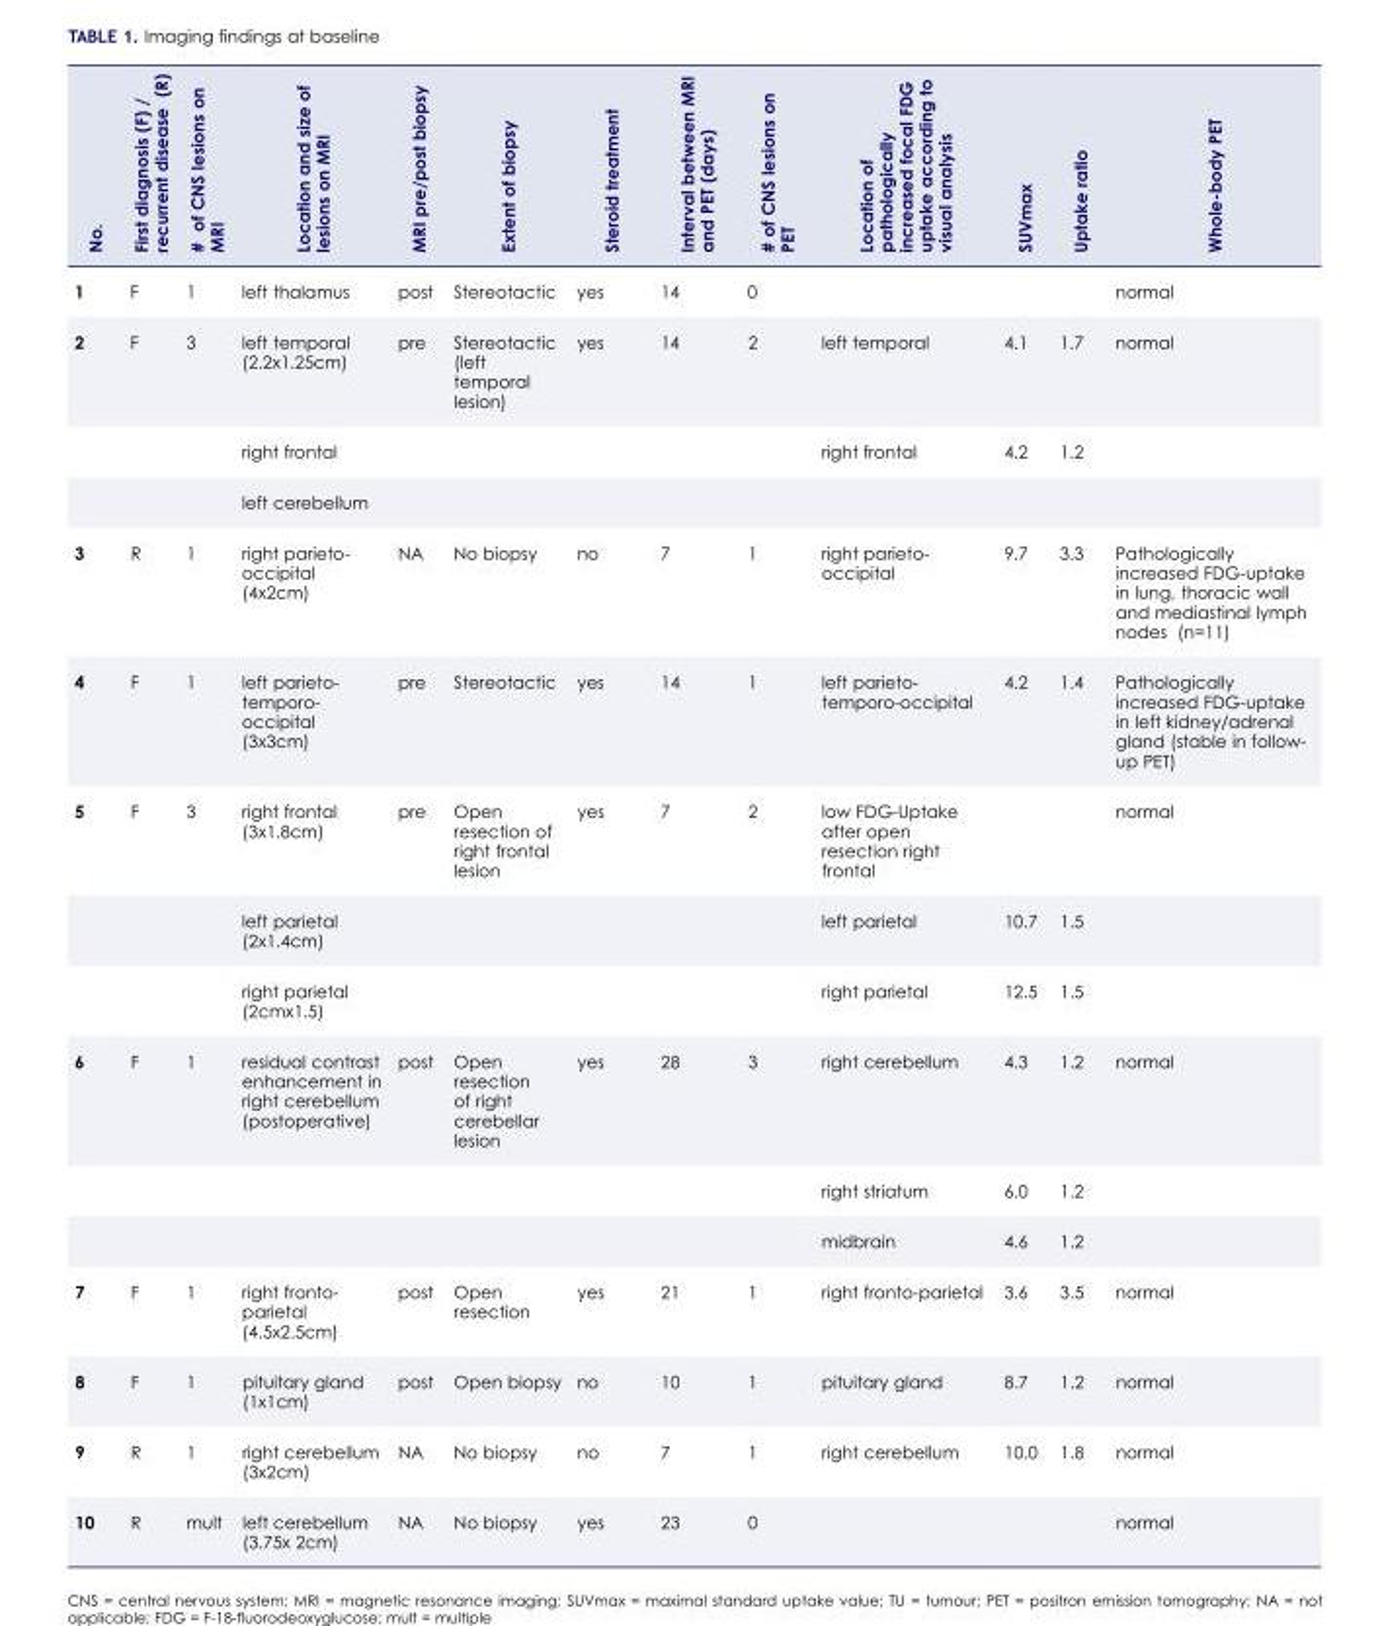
<table><thead><tr><td>No.</td><td>First diagnosis (F) / recurrent disease (R)</td><td># of CNS lesions on MRI</td><td>Location and size of lesions on MRI</td><td>MRI pre/post biopsy</td><td>Extent of biopsy</td><td>Steroid treatment</td><td>Interval between MRI and PET (days)</td><td># of CNS lesions on PET</td><td>Location of pathologically increased focal FDG uptake according to visual analysis</td><td>SUVmax</td><td>Uptake ratio</td><td>Whole-body PET</td></tr></thead><tbody><tr><td>1</td><td>F</td><td>1</td><td>left thalamus</td><td>post</td><td>Stereotactic</td><td>yes</td><td>14</td><td>0</td><td></td><td></td><td></td><td>normal</td></tr><tr><td rowspan="3">2</td><td>F</td><td>3</td><td>left temporal (2.2x1.25cm)</td><td>pre</td><td>Stereotactic (left temporal lesion)</td><td>yes</td><td>14</td><td>2</td><td>left temporal</td><td>4.1</td><td>1.7</td><td>normal</td></tr><tr><td></td><td></td><td>right frontal</td><td></td><td></td><td></td><td></td><td></td><td>right frontal</td><td>4.2</td><td>1.2</td><td></td></tr><tr><td></td><td></td><td>left cerebellum</td><td></td><td></td><td></td><td></td><td></td><td></td><td></td><td></td><td></td></tr><tr><td>3</td><td>R</td><td>1</td><td>right parieto- occipital (4x2cm)</td><td>NA</td><td>No biopsy</td><td>no</td><td>7</td><td>1</td><td>right parieto- occipital</td><td>9.7</td><td>3.3</td><td>Pathologically increased FDG-uptake in lung, thoracic wall and mediastinal lymph nodes (n=11)</td></tr><tr><td>4</td><td>F</td><td>1</td><td>left parieto- temporo- occipital (3x3cm)</td><td>pre</td><td>Stereotactic</td><td>yes</td><td>14</td><td>1</td><td>left parieto- temporo-occipital</td><td>4.2</td><td>1.4</td><td>Pathologically increased FDG-uptake in left kidney/adrenal gland (stable in follow- up PET)</td></tr><tr><td rowspan="3">5</td><td>F</td><td>3</td><td>right frontal (3x1.8cm)</td><td>pre</td><td>Open resection of right frontal lesion</td><td>yes</td><td>7</td><td>2</td><td>low FDG-Uptake after open resection right frontal</td><td></td><td></td><td>normal</td></tr><tr><td></td><td></td><td>left parietal (2x1.4cm)</td><td></td><td></td><td></td><td></td><td></td><td>left parietal</td><td>10.7</td><td>1.5</td><td></td></tr><tr><td></td><td></td><td>right parietal (2cmx1.5)</td><td></td><td></td><td></td><td></td><td></td><td>right parietal</td><td>12.5</td><td>1.5</td><td></td></tr><tr><td rowspan="3">6</td><td>F</td><td>1</td><td>residual contrast enhancement in right cerebellum (postoperative)</td><td>post</td><td>Open resection of right cerebellar lesion</td><td>yes</td><td>28</td><td>3</td><td>right cerebellum</td><td>4.3</td><td>1.2</td><td>normal</td></tr><tr><td></td><td></td><td></td><td></td><td></td><td></td><td></td><td></td><td>right striatum</td><td>6.0</td><td>1.2</td><td></td></tr><tr><td></td><td></td><td></td><td></td><td></td><td></td><td></td><td></td><td>midbrain</td><td>4.6</td><td>1.2</td><td></td></tr><tr><td>7</td><td>F</td><td>1</td><td>right fronto- parietal (4.5x2.5cm)</td><td>post</td><td>Open resection</td><td>yes</td><td>21</td><td>1</td><td>right fronto-parietal</td><td>3.6</td><td>3.5</td><td>normal</td></tr><tr><td>8</td><td>F</td><td>1</td><td>pituitary gland (1x1cm)</td><td>post</td><td>Open biopsy</td><td>no</td><td>10</td><td>1</td><td>pituitary gland</td><td>8.7</td><td>1.2</td><td>normal</td></tr><tr><td>9</td><td>R</td><td>1</td><td>right cerebellum (3x2cm)</td><td>NA</td><td>No biopsy</td><td>no</td><td>7</td><td>1</td><td>right cerebellum</td><td>10.0</td><td>1.8</td><td>normal</td></tr><tr><td>10</td><td>R</td><td>mult</td><td>left cerebellum (3.75x 2cm)</td><td>NA</td><td>No biopsy</td><td>yes</td><td>23</td><td>0</td><td></td><td></td><td></td><td>normal</td></tr></tbody></table>